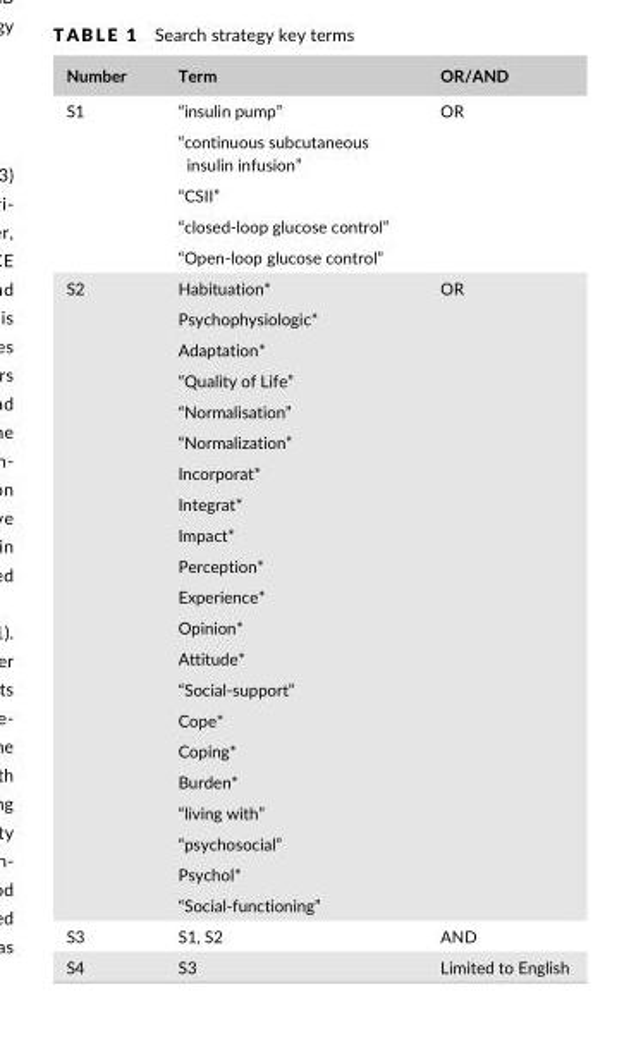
<table><thead><tr><td>Number</td><td>Term</td><td>OR/AND</td></tr></thead><tbody><tr><td rowspan="5">S1</td><td>“insulin pump”</td><td rowspan="5">OR</td></tr><tr><td>“continuous subcutaneous insulin infusion”</td></tr><tr><td>“CSII”</td></tr><tr><td>“closed- loop glucose control”</td></tr><tr><td>“Open- loop glucose control”</td></tr><tr><td rowspan="21">S2</td><td>Habituation*</td><td rowspan="21">OR</td></tr><tr><td>Psychophysiologic*</td></tr><tr><td>Adaptation*</td></tr><tr><td>“Quality of Life”</td></tr><tr><td>“Normalisation”</td></tr><tr><td>“Normalization”</td></tr><tr><td>Incorporat*</td></tr><tr><td>Integrat*</td></tr><tr><td>Impact*</td></tr><tr><td>Perception*</td></tr><tr><td>Experience*</td></tr><tr><td>Opinion*</td></tr><tr><td>Attitude*</td></tr><tr><td>“Social- support”</td></tr><tr><td>Cope*</td></tr><tr><td>Coping*</td></tr><tr><td>Burden*</td></tr><tr><td>“living with”</td></tr><tr><td>“psychosocial”</td></tr><tr><td>Psychol*</td></tr><tr><td>“Social- functioning”</td></tr><tr><td>S3</td><td>S1, S2</td><td>AND</td></tr><tr><td>S4</td><td>S3</td><td>Limited to English</td></tr></tbody></table>